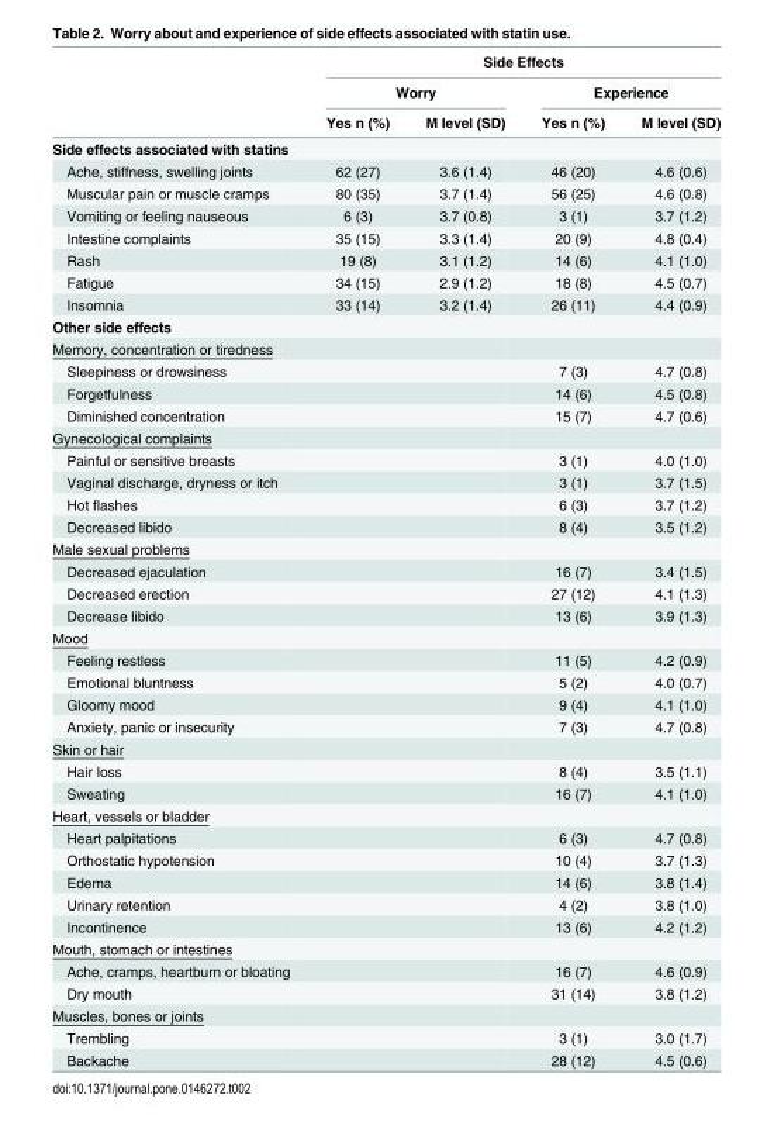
<table><thead><tr><td rowspan="3"></td><td colspan="4">Side Effects</td></tr><tr><td colspan="2">Worry</td><td colspan="2">Experience</td></tr><tr><td>Yes n (%)</td><td>M level (SD)</td><td>Yes n (%)</td><td>M level (SD)</td></tr></thead><tbody><tr><td colspan="5">Side effects associated with statins</td></tr><tr><td>Ache, stiffness, swelling joints</td><td>62 (27)</td><td>3.6 (1.4)</td><td>46 (20)</td><td>4.6 (0.6)</td></tr><tr><td>Muscular pain or muscle cramps</td><td>80 (35)</td><td>3.7 (1.4)</td><td>56 (25)</td><td>4.6 (0.8)</td></tr><tr><td>Vomiting or feeling nauseous</td><td>6 (3)</td><td>3.7 (0.8)</td><td>3 (1)</td><td>3.7 (1.2)</td></tr><tr><td>Intestine complaints</td><td>35 (15)</td><td>3.3 (1.4)</td><td>20 (9)</td><td>4.8 (0.4)</td></tr><tr><td>Rash</td><td>19 (8)</td><td>3.1 (1.2)</td><td>14 (6)</td><td>4.1 (1.0)</td></tr><tr><td>Fatigue</td><td>34 (15)</td><td>2.9 (1.2)</td><td>18 (8)</td><td>4.5 (0.7)</td></tr><tr><td>Insomnia</td><td>33 (14)</td><td>3.2 (1.4)</td><td>26 (11)</td><td>4.4 (0.9)</td></tr><tr><td colspan="5">Other side effects</td></tr><tr><td colspan="5">Memory, concentration or tiredness</td></tr><tr><td>Sleepiness or drowsiness</td><td></td><td></td><td>7 (3)</td><td>4.7 (0.8)</td></tr><tr><td>Forgetfulness</td><td></td><td></td><td>14 (6)</td><td>4.5 (0.8)</td></tr><tr><td>Diminished concentration</td><td></td><td></td><td>15 (7)</td><td>4.7 (0.6)</td></tr><tr><td colspan="5">Gynecological complaints</td></tr><tr><td>Painful or sensitive breasts</td><td></td><td></td><td>3 (1)</td><td>4.0 (1.0)</td></tr><tr><td>Vaginal discharge, dryness or itch</td><td></td><td></td><td>3 (1)</td><td>3.7 (1.5)</td></tr><tr><td>Hot flashes</td><td></td><td></td><td>6 (3)</td><td>3.7 (1.2)</td></tr><tr><td>Decreased libido</td><td></td><td></td><td>8 (4)</td><td>3.5 (1.2)</td></tr><tr><td colspan="5">Male sexual problems</td></tr><tr><td>Decreased ejaculation</td><td></td><td></td><td>16 (7)</td><td>3.4 (1.5)</td></tr><tr><td>Decreased erection</td><td></td><td></td><td>27 (12)</td><td>4.1 (1.3)</td></tr><tr><td>Decrease libido</td><td></td><td></td><td>13 (6)</td><td>3.9 (1.3)</td></tr><tr><td colspan="5">Mood</td></tr><tr><td>Feeling restless</td><td></td><td></td><td>11 (5)</td><td>4.2 (0.9)</td></tr><tr><td>Emotional bluntness</td><td></td><td></td><td>5 (2)</td><td>4.0 (0.7)</td></tr><tr><td>Gloomy mood</td><td></td><td></td><td>9 (4)</td><td>4.1 (1.0)</td></tr><tr><td>Anxiety, panic or insecurity</td><td></td><td></td><td>7 (3)</td><td>4.7 (0.8)</td></tr><tr><td colspan="5">Skin or hair</td></tr><tr><td>Hair loss</td><td></td><td></td><td>8 (4)</td><td>3.5 (1.1)</td></tr><tr><td>Sweating</td><td></td><td></td><td>16 (7)</td><td>4.1 (1.0)</td></tr><tr><td colspan="5">Heart, vessels or bladder</td></tr><tr><td>Heart palpitations</td><td></td><td></td><td>6 (3)</td><td>4.7 (0.8)</td></tr><tr><td>Orthostatic hypotension</td><td></td><td></td><td>10 (4)</td><td>3.7 (1.3)</td></tr><tr><td>Edema</td><td></td><td></td><td>14 (6)</td><td>3.8 (1.4)</td></tr><tr><td>Urinary retention</td><td></td><td></td><td>4 (2)</td><td>3.8 (1.0)</td></tr><tr><td>Incontinence</td><td></td><td></td><td>13 (6)</td><td>4.2 (1.2)</td></tr><tr><td colspan="5">Mouth, stomach or intestines</td></tr><tr><td>Ache, cramps, heartburn or bloating</td><td></td><td></td><td>16 (7)</td><td>4.6 (0.9)</td></tr><tr><td>Dry mouth</td><td></td><td></td><td>31 (14)</td><td>3.8 (1.2)</td></tr><tr><td colspan="5">Muscles, bones or joints</td></tr><tr><td>Trembling</td><td></td><td></td><td>3 (1)</td><td>3.0 (1.7)</td></tr><tr><td>Backache</td><td></td><td></td><td>28 (12)</td><td>4.5 (0.6)</td></tr></tbody></table>